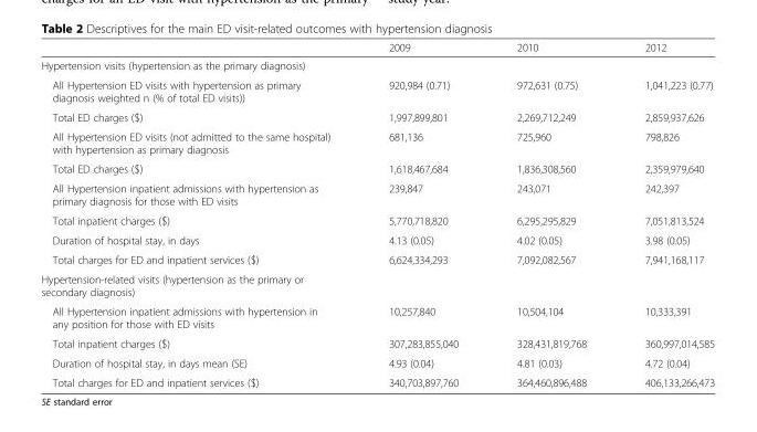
<table><thead><tr><td></td><td>2009</td><td>2010</td><td>2012</td></tr></thead><tbody><tr><td colspan="4">Hypertension visits (hypertension as the primary diagnosis)</td></tr><tr><td>All Hypertension ED visits with hypertension as primary diagnosis weighted n (% of total ED visits))</td><td>920,984 (0.71)</td><td>972,631 (0.75)</td><td>1,041,223 (0.77)</td></tr><tr><td>Total ED charges ($)</td><td>1,997,899,801</td><td>2,269,712,249</td><td>2,859,937,626</td></tr><tr><td>All Hypertension ED visits (not admitted to the same hospital) with hypertension as primary diagnosis</td><td>681,136</td><td>725,960</td><td>798,826</td></tr><tr><td>Total ED charges ($)</td><td>1,618,467,684</td><td>1,836,308,560</td><td>2,359,979,640</td></tr><tr><td>All Hypertension inpatient admissions with hypertension as primary diagnosis for those with ED visits</td><td>239,847</td><td>243,071</td><td>242,397</td></tr><tr><td>Total inpatient charges ($)</td><td>5,770,718,820</td><td>6,295,295,829</td><td>7,051,813,524</td></tr><tr><td>Duration of hospital stay, in days</td><td>4.13 (0.05)</td><td>4.02 (0.05)</td><td>3.98 (0.05)</td></tr><tr><td>Total charges for ED and inpatient services ($)</td><td>6,624,334,293</td><td>7,092,082,567</td><td>7,941,168,117</td></tr><tr><td colspan="4">Hypertension-related visits (hypertension as the primary or secondary diagnosis)</td></tr><tr><td>All Hypertension inpatient admissions with hypertension in any position for those with ED visits</td><td>10,257,840</td><td>10,504,104</td><td>10,333,391</td></tr><tr><td>Total inpatient charges ($)</td><td>307,283,855,040</td><td>328,431,819,768</td><td>360,997,014,585</td></tr><tr><td>Duration of hospital stay, in days mean (SE)</td><td>4.93 (0.04)</td><td>4.81 (0.03)</td><td>4.72 (0.04)</td></tr><tr><td>Total charges for ED and inpatient services ($)</td><td>340,703,897,760</td><td>364,460,896,488</td><td>406,133,266,473</td></tr></tbody></table>